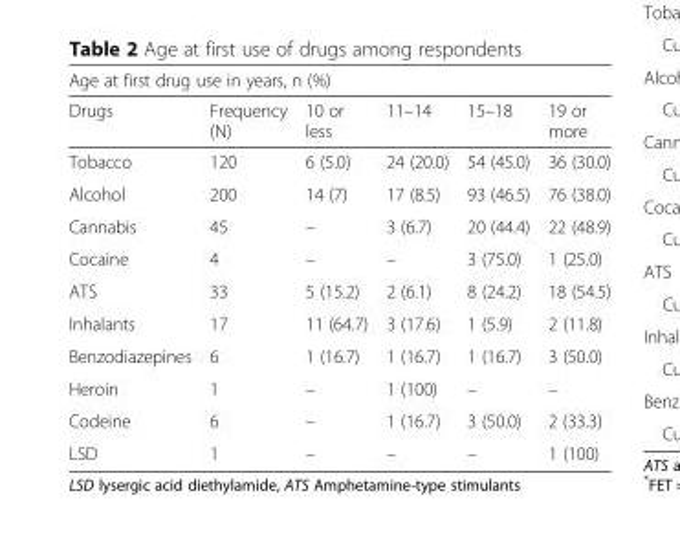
<table><thead><tr><td colspan="6">Age at first drug use in years, n (%)</td></tr><tr><td>Drugs</td><td>Frequency (N)</td><td>10 or less</td><td>11–14</td><td>15–18</td><td>19 or more</td></tr></thead><tbody><tr><td>Tobacco</td><td>120</td><td>6 (5.0)</td><td>24 (20.0)</td><td>54 (45.0)</td><td>36 (30.0)</td></tr><tr><td>Alcohol</td><td>200</td><td>14 (7)</td><td>17 (8.5)</td><td>93 (46.5)</td><td>76 (38.0)</td></tr><tr><td>Cannabis</td><td>45</td><td>–</td><td>3 (6.7)</td><td>20 (44.4)</td><td>22 (48.9)</td></tr><tr><td>Cocaine</td><td>4</td><td>–</td><td>–</td><td>3 (75.0)</td><td>1 (25.0)</td></tr><tr><td>ATS</td><td>33</td><td>5 (15.2)</td><td>2 (6.1)</td><td>8 (24.2)</td><td>18 (54.5)</td></tr><tr><td>Inhalants</td><td>17</td><td>11 (64.7)</td><td>3 (17.6)</td><td>1 (5.9)</td><td>2 (11.8)</td></tr><tr><td>Benzodiazepines</td><td>6</td><td>1 (16.7)</td><td>1 (16.7)</td><td>1 (16.7)</td><td>3 (50.0)</td></tr><tr><td>Heroin</td><td>1</td><td>–</td><td>1 (100)</td><td>–</td><td>–</td></tr><tr><td>Codeine</td><td>6</td><td>–</td><td>1 (16.7)</td><td>3 (50.0)</td><td>2 (33.3)</td></tr><tr><td>LSD</td><td>1</td><td>–</td><td>–</td><td>–</td><td>1 (100)</td></tr></tbody></table>